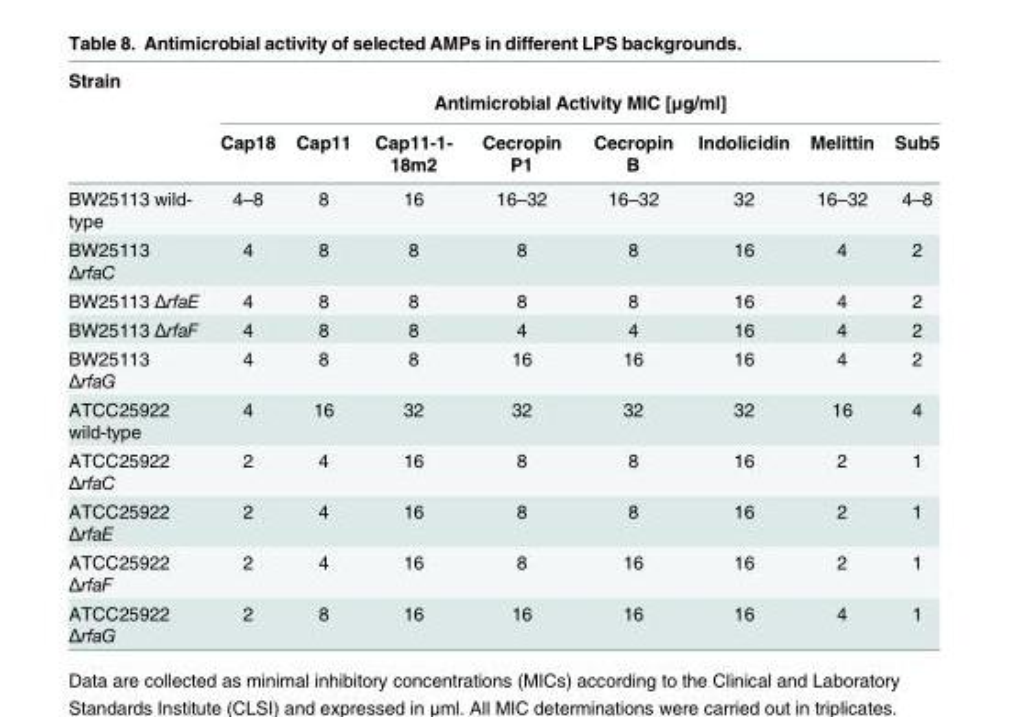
<table><thead><tr><td rowspan="3">Strain</td><td></td><td></td><td></td><td></td><td></td><td></td><td></td><td></td></tr><tr><td colspan="8">Antimicrobial Activity MIC [μg/ml]</td></tr><tr><td>Cap18</td><td>Cap11</td><td>Cap11-1- 18m2</td><td>Cecropin P1</td><td>Cecropin B</td><td>Indolicidin</td><td>Melittin</td><td>Sub5</td></tr></thead><tbody><tr><td>BW25113 wild- type</td><td>4–8</td><td>8</td><td>16</td><td>16–32</td><td>16–32</td><td>32</td><td>16–32</td><td>4–8</td></tr><tr><td>BW25113 ΔrfaC</td><td>4</td><td>8</td><td>8</td><td>8</td><td>8</td><td>16</td><td>4</td><td>2</td></tr><tr><td>BW25113 ΔrfaE</td><td>4</td><td>8</td><td>8</td><td>8</td><td>8</td><td>16</td><td>4</td><td>2</td></tr><tr><td>BW25113 ΔrfaF</td><td>4</td><td>8</td><td>8</td><td>4</td><td>4</td><td>16</td><td>4</td><td>2</td></tr><tr><td>BW25113 ΔrfaG</td><td>4</td><td>8</td><td>8</td><td>16</td><td>16</td><td>16</td><td>4</td><td>2</td></tr><tr><td>ATCC25922 wild-type</td><td>4</td><td>16</td><td>32</td><td>32</td><td>32</td><td>32</td><td>16</td><td>4</td></tr><tr><td>ATCC25922 ΔrfaC</td><td>2</td><td>4</td><td>16</td><td>8</td><td>8</td><td>16</td><td>2</td><td>1</td></tr><tr><td>ATCC25922 ΔrfaE</td><td>2</td><td>4</td><td>16</td><td>8</td><td>8</td><td>16</td><td>2</td><td>1</td></tr><tr><td>ATCC25922 ΔrfaF</td><td>2</td><td>4</td><td>16</td><td>8</td><td>16</td><td>16</td><td>2</td><td>1</td></tr><tr><td>ATCC25922 ΔrfaG</td><td>2</td><td>8</td><td>16</td><td>16</td><td>16</td><td>16</td><td>4</td><td>1</td></tr></tbody></table>